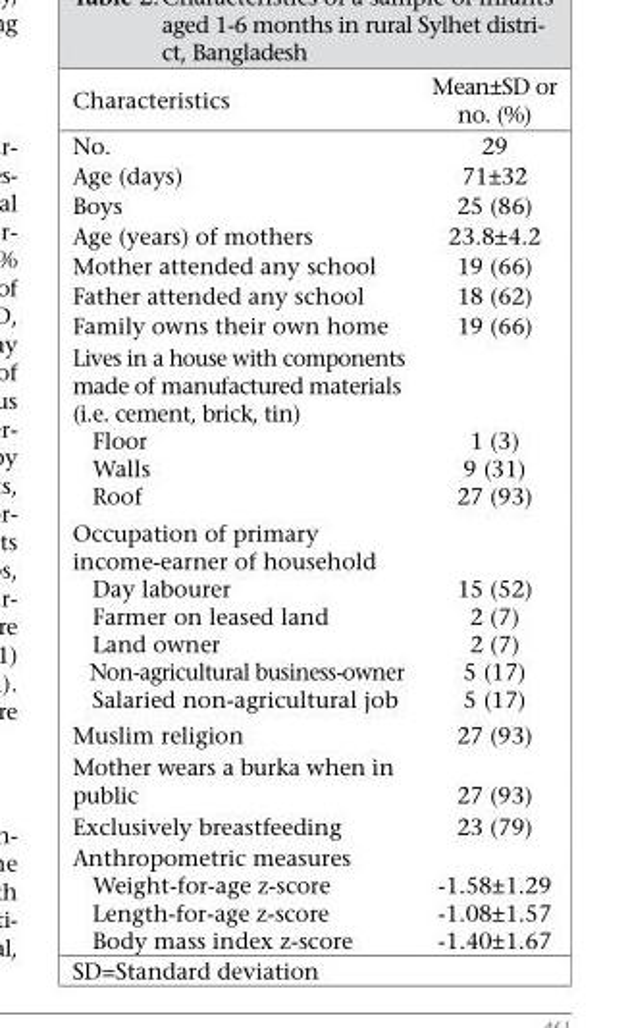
<table><thead><tr><td>Characteristics</td><td>Mean±SD or no. (%)</td></tr></thead><tbody><tr><td>No.</td><td>29</td></tr><tr><td>Age (days)</td><td>71±32</td></tr><tr><td>Boys</td><td>25 (86)</td></tr><tr><td>Age (years) of mothers</td><td>23.8±4.2</td></tr><tr><td>Mother attended any school</td><td>19 (66)</td></tr><tr><td>Father attended any school</td><td>18 (62)</td></tr><tr><td>Family owns their own home</td><td>19 (66)</td></tr><tr><td colspan="2">Lives in a house with components made of manufactured materials (i.e. cement, brick, tin)</td></tr><tr><td>Floor</td><td>1 (3)</td></tr><tr><td>Walls</td><td>9 (31)</td></tr><tr><td>Roof</td><td>27 (93)</td></tr><tr><td colspan="2">Occupation of primary income-earner of household</td></tr><tr><td>Day labourer</td><td>15 (52)</td></tr><tr><td>Farmer on leased land</td><td>2 (7)</td></tr><tr><td>Land owner</td><td>2 (7)</td></tr><tr><td>Non-agricultural business-owner</td><td>5 (17)</td></tr><tr><td>Salaried non-agricultural job</td><td>5 (17)</td></tr><tr><td>Muslim religion</td><td>27 (93)</td></tr><tr><td>Mother wears a burka when in public</td><td>27 (93)</td></tr><tr><td>Exclusively breastfeeding</td><td>23 (79)</td></tr><tr><td colspan="2">Anthropometric measures</td></tr><tr><td>Weight-for-age z-score</td><td>-1.58±1.29</td></tr><tr><td>Length-for-age z-score</td><td>-1.08±1.57</td></tr><tr><td>Body mass index z-score</td><td>-1.40±1.67</td></tr></tbody></table>